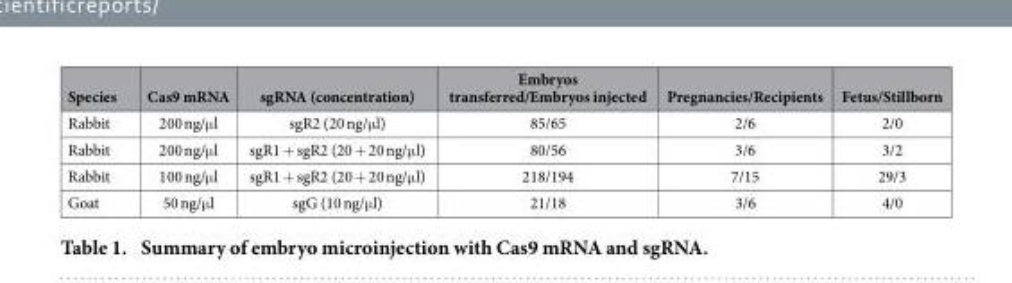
<table><thead><tr><td>Species</td><td>Cas9 mRNA</td><td>sgRNA (concentration)</td><td>Embryos transferred/Embryos injected</td><td>Pregnancies/Recipients</td><td>Fetus/Stillborn</td></tr></thead><tbody><tr><td>Rabbit</td><td>200 ng/μ l</td><td>sgR2 (20 ng/μ l)</td><td>85/65</td><td>2/6</td><td>2/0</td></tr><tr><td>Rabbit</td><td>200 ng/μ l</td><td>sgR1 + sgR2 (20 + 20 ng/μ l)</td><td>80/56</td><td>3/6</td><td>3/2</td></tr><tr><td>Rabbit</td><td>100 ng/μ l</td><td>sgR1 + sgR2 (20 + 20 ng/μ l)</td><td>218/194</td><td>7/15</td><td>29/3</td></tr><tr><td>Goat</td><td>50 ng/μ l</td><td>sgG (10 ng/μ l)</td><td>21/18</td><td>3/6</td><td>4/0</td></tr></tbody></table>